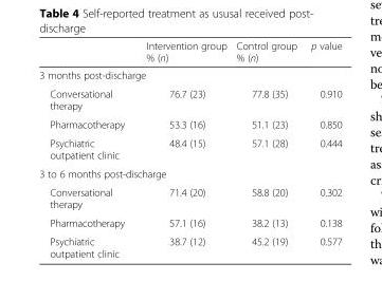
<table><thead><tr><td></td><td>Intervention group % (n)</td><td>Control group % (n)</td><td>p value</td></tr></thead><tbody><tr><td colspan="4">3 months post-discharge</td></tr><tr><td>Conversational therapy</td><td>76.7 (23)</td><td>77.8 (35)</td><td>0.910</td></tr><tr><td>Pharmacotherapy</td><td>53.3 (16)</td><td>51.1 (23)</td><td>0.850</td></tr><tr><td>Psychiatric outpatient clinic</td><td>48.4 (15)</td><td>57.1 (28)</td><td>0.444</td></tr><tr><td colspan="4">3 to 6 months post-discharge</td></tr><tr><td>Conversational therapy</td><td>71.4 (20)</td><td>58.8 (20)</td><td>0.302</td></tr><tr><td>Pharmacotherapy</td><td>57.1 (16)</td><td>38.2 (13)</td><td>0.138</td></tr><tr><td>Psychiatric outpatient clinic</td><td>38.7 (12)</td><td>45.2 (19)</td><td>0.577</td></tr></tbody></table>